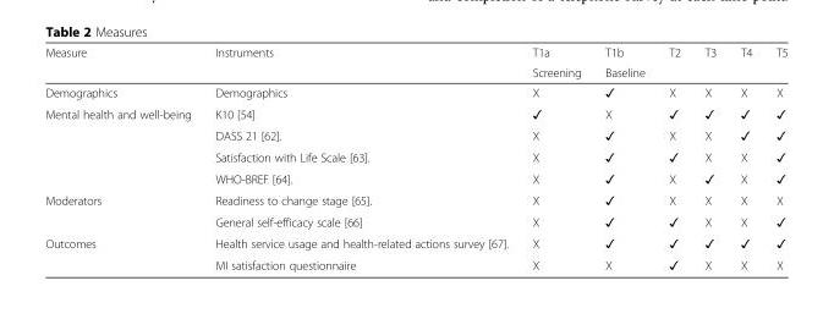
<table><thead><tr><td rowspan="2">Measure</td><td rowspan="2">Instruments</td><td rowspan="2">T1a Screening</td><td rowspan="2">T1b Baseline</td><td rowspan="2">T2</td><td rowspan="2">T3</td><td rowspan="2">T4</td><td rowspan="2">T5</td></tr><tr></tr></thead><tbody><tr><td>Demographics</td><td>Demographics</td><td>X</td><td>✓</td><td>X</td><td>X</td><td>X</td><td>X</td></tr><tr><td rowspan="4">Mental health and well-being</td><td>K10 [54]</td><td>✓</td><td>X</td><td>✓</td><td>✓</td><td>✓</td><td>✓</td></tr><tr><td>DASS 21 [62].</td><td>X</td><td>✓</td><td>X</td><td>X</td><td>✓</td><td>✓</td></tr><tr><td>Satisfaction with Life Scale [63].</td><td>X</td><td>✓</td><td>✓</td><td>X</td><td>X</td><td>✓</td></tr><tr><td>WHO-BREF [64].</td><td>X</td><td>✓</td><td>X</td><td>✓</td><td>X</td><td>✓</td></tr><tr><td rowspan="2">Moderators</td><td>Readiness to change stage [65].</td><td>X</td><td>✓</td><td>X</td><td>X</td><td>X</td><td>X</td></tr><tr><td>General self-efficacy scale [66]</td><td>X</td><td>✓</td><td>✓</td><td>X</td><td>X</td><td>✓</td></tr><tr><td rowspan="2">Outcomes</td><td>Health service usage and health-related actions survey [67].</td><td>X</td><td>✓</td><td>✓</td><td>✓</td><td>✓</td><td>✓</td></tr><tr><td>MI satisfaction questionnaire</td><td>X</td><td>X</td><td>✓</td><td>X</td><td>X</td><td>X</td></tr></tbody></table>